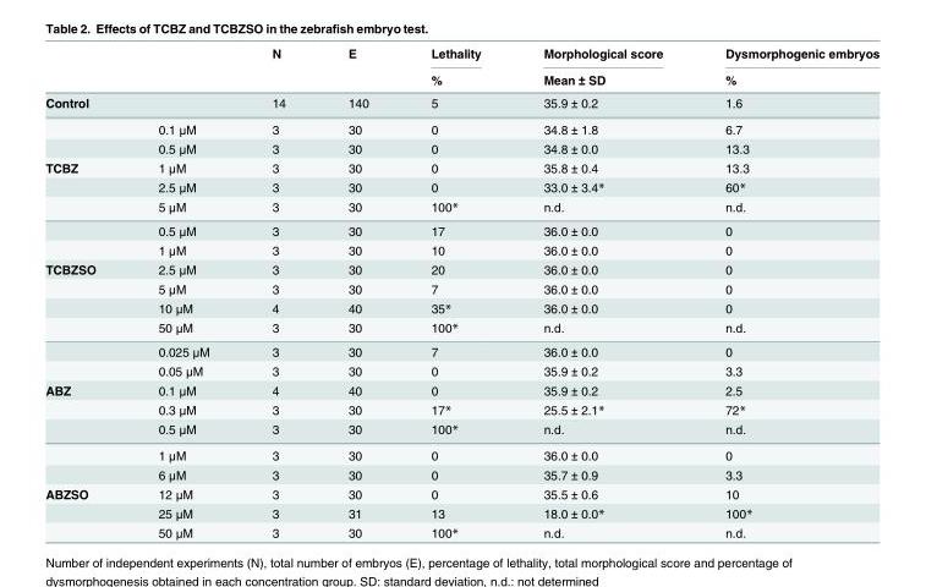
<table><thead><tr><td rowspan="2"></td><td rowspan="2"></td><td rowspan="2">N</td><td rowspan="2">E</td><td rowspan="2">Lethality %</td><td rowspan="2">Morphological score Mean ± SD</td><td rowspan="2">Dysmorphogenic embryos %</td></tr><tr></tr></thead><tbody><tr><td rowspan="3">Control</td><td></td><td>14</td><td>140</td><td>5</td><td>35.9 ± 0.2</td><td>1.6</td></tr><tr><td>0.1 μM</td><td>3</td><td>30</td><td>0</td><td>34.8 ± 1.8</td><td>6.7</td></tr><tr><td>0.5 μM</td><td>3</td><td>30</td><td>0</td><td>34.8 ± 0.0</td><td>13.3</td></tr><tr><td rowspan="5">TCBZ</td><td>1 μM</td><td>3</td><td>30</td><td>0</td><td>35.8 ± 0.4</td><td>13.3</td></tr><tr><td>2.5 μM</td><td>3</td><td>30</td><td>0</td><td>33.0 ± 3.4*</td><td>60*</td></tr><tr><td>5 μM</td><td>3</td><td>30</td><td>100*</td><td>n.d.</td><td>n.d.</td></tr><tr><td>0.5 μM</td><td>3</td><td>30</td><td>17</td><td>36.0 ± 0.0</td><td>0</td></tr><tr><td>1 μM</td><td>3</td><td>30</td><td>10</td><td>36.0 ± 0.0</td><td>0</td></tr><tr><td rowspan="6">TCBZSO</td><td>2.5 μM</td><td>3</td><td>30</td><td>20</td><td>36.0 ± 0.0</td><td>0</td></tr><tr><td>5 μM</td><td>3</td><td>30</td><td>7</td><td>36.0 ± 0.0</td><td>0</td></tr><tr><td>10 μM</td><td>4</td><td>40</td><td>35*</td><td>36.0 ± 0.0</td><td>0</td></tr><tr><td>50 μM</td><td>3</td><td>30</td><td>100*</td><td>n.d.</td><td>n.d.</td></tr><tr><td>0.025 μM</td><td>3</td><td>30</td><td>7</td><td>36.0 ± 0.0</td><td>0</td></tr><tr><td>0.05 μM</td><td>3</td><td>30</td><td>0</td><td>35.9 ± 0.2</td><td>3.3</td></tr><tr><td rowspan="5">ABZ</td><td>0.1 μM</td><td>4</td><td>40</td><td>0</td><td>35.9 ± 0.2</td><td>2.5</td></tr><tr><td>0.3 μM</td><td>3</td><td>30</td><td>17*</td><td>25.5 ± 2.1*</td><td>72*</td></tr><tr><td>0.5 μM</td><td>3</td><td>30</td><td>100*</td><td>n.d.</td><td>n.d.</td></tr><tr><td>1 μM</td><td>3</td><td>30</td><td>0</td><td>36.0 ± 0.0</td><td>0</td></tr><tr><td>6 μM</td><td>3</td><td>30</td><td>0</td><td>35.7 ± 0.9</td><td>3.3</td></tr><tr><td rowspan="3">ABZSO</td><td>12 μM</td><td>3</td><td>30</td><td>0</td><td>35.5 ± 0.6</td><td>10</td></tr><tr><td>25 μM</td><td>3</td><td>31</td><td>13</td><td>18.0 ± 0.0*</td><td>100*</td></tr><tr><td>50 μM</td><td>3</td><td>30</td><td>100*</td><td>n.d.</td><td>n.d.</td></tr></tbody></table>